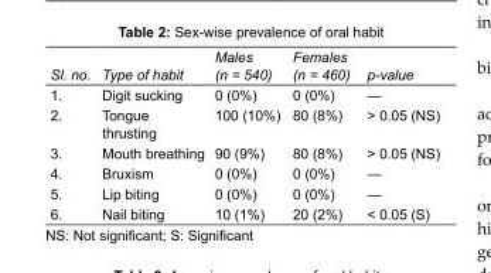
<table><tbody><tr><td>Sl. no.</td><td>Type of habit</td><td>Males (n = 540)</td><td>Females (n = 460)</td><td>p-value</td></tr><tr><td>1.</td><td>Digit sucking</td><td>0 (0%)</td><td>0 (0%)</td><td>—</td></tr><tr><td>2.</td><td>Tongue thrusting</td><td>100 (10%)</td><td>80 (8%)</td><td>&gt; 0.05 (NS)</td></tr><tr><td>3.</td><td>Mouth breathing</td><td>90 (9%)</td><td>80 (8%)</td><td>&gt; 0.05 (NS)</td></tr><tr><td>4.</td><td>Bruxism</td><td>0 (0%)</td><td>0 (0%)</td><td>—</td></tr><tr><td>5.</td><td>Lip biting</td><td>0 (0%)</td><td>0 (0%)</td><td>—</td></tr><tr><td>6.</td><td>Nail biting</td><td>10 (1%)</td><td>20 (2%)</td><td>&lt; 0.05 (S)</td></tr></tbody></table>